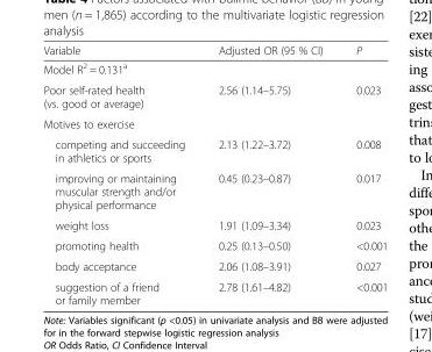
<table><thead><tr><td>Variable</td><td>Adjusted OR (95 % CI)</td><td>P</td></tr></thead><tbody><tr><td colspan="3">Model R<sup>2</sup> = 0.131<sup>a</sup></td></tr><tr><td>Poor self-rated health (vs. good or average)</td><td>2.56 (1.14–5.75)</td><td>0.023</td></tr><tr><td colspan="3">Motives to exercise</td></tr><tr><td>competing and succeeding in athletics or sports</td><td>2.13 (1.22–3.72)</td><td>0.008</td></tr><tr><td>improving or maintaining muscular strength and/or physical performance</td><td>0.45 (0.23–0.87)</td><td>0.017</td></tr><tr><td>weight loss</td><td>1.91 (1.09–3.34)</td><td>0.023</td></tr><tr><td>promoting health</td><td>0.25 (0.13–0.50)</td><td>&lt;0.001</td></tr><tr><td>body acceptance</td><td>2.06 (1.08–3.91)</td><td>0.027</td></tr><tr><td>suggestion of a friend or family member</td><td>2.78 (1.61–4.82)</td><td>&lt;0.001</td></tr></tbody></table>